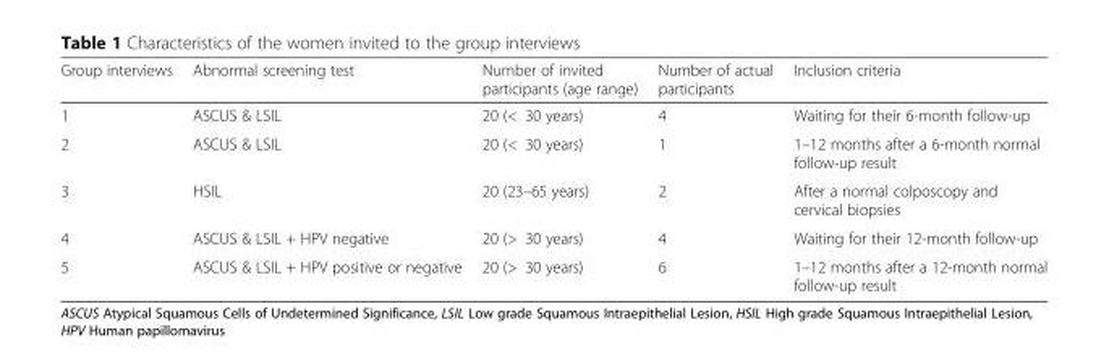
<table><thead><tr><td>Group interviews</td><td>Abnormal screening test</td><td>Number of invited participants (age range)</td><td>Number of actual participants</td><td>Inclusion criteria</td></tr></thead><tbody><tr><td>1</td><td>ASCUS &amp; LSIL</td><td>20 (&lt; 30 years)</td><td>4</td><td>Waiting for their 6-month follow-up</td></tr><tr><td>2</td><td>ASCUS &amp; LSIL</td><td>20 (&lt; 30 years)</td><td>1</td><td>1–12 months after a 6-month normal follow-up result</td></tr><tr><td>3</td><td>HSIL</td><td>20 (23–65 years)</td><td>2</td><td>After a normal colposcopy and cervical biopsies</td></tr><tr><td>4</td><td>ASCUS &amp; LSIL + HPV negative</td><td>20 (&gt; 30 years)</td><td>4</td><td>Waiting for their 12-month follow-up</td></tr><tr><td>5</td><td>ASCUS &amp; LSIL + HPV positive or negative</td><td>20 (&gt; 30 years)</td><td>6</td><td>1–12 months after a 12-month normal follow-up result</td></tr></tbody></table>